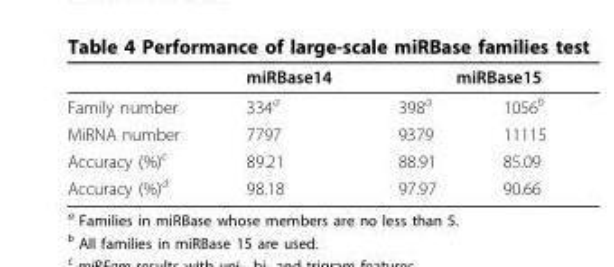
<table><thead><tr><td rowspan="2">Family number</td><td rowspan="2">miRBase14 334<sup>a</sup></td><td colspan="2">miRBase15</td></tr><tr><td>398<sup>a</sup></td><td>1056<sup>b</sup></td></tr></thead><tbody><tr><td>MiRNA number</td><td>7797</td><td>9379</td><td>11115</td></tr><tr><td>Accuracy (%)<sup>c</sup></td><td>89.21</td><td>88.91</td><td>85.09</td></tr><tr><td>Accuracy (%)<sup>d</sup></td><td>98.18</td><td>97.97</td><td>90.66</td></tr></tbody></table>